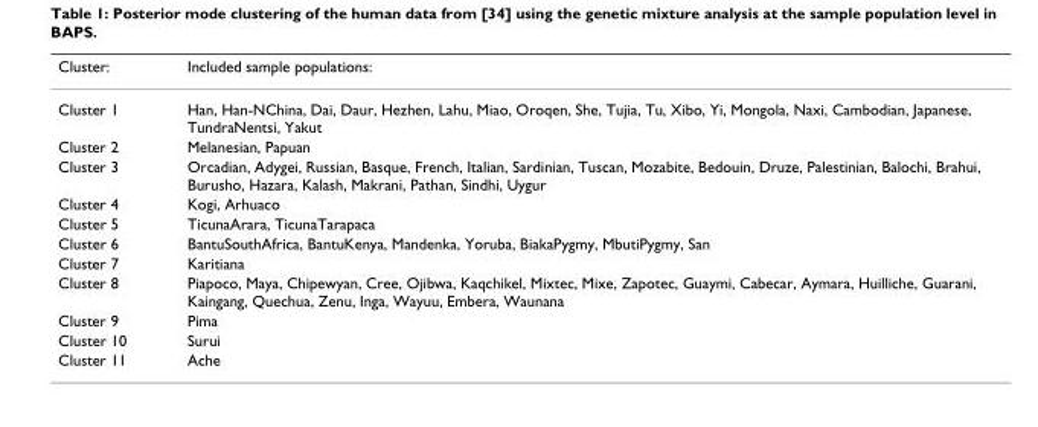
<table><thead><tr><td>Cluster:</td><td>Included sample populations:</td></tr></thead><tbody><tr><td>Cluster 1</td><td>Han, Han-NChina, Dai, Daur, Hezhen, Lahu, Miao, Oroqen, She, Tujia, Tu, Xibo, Yi, Mongola, Naxi, Cambodian, Japanese, TundraNentsi, Yakut</td></tr><tr><td>Cluster 2</td><td>Melanesian, Papuan</td></tr><tr><td>Cluster 3</td><td>Orcadian, Adygei, Russian, Basque, French, Italian, Sardinian, Tuscan, Mozabite, Bedouin, Druze, Palestinian, Balochi, Brahui, Burusho, Hazara, Kalash, Makrani, Pathan, Sindhi, Uygur</td></tr><tr><td>Cluster 4</td><td>Kogi, Arhuaco</td></tr><tr><td>Cluster 5</td><td>TicunaArara, TicunaTarapaca</td></tr><tr><td>Cluster 6</td><td>BantuSouthAfrica, BantuKenya, Mandenka, Yoruba, BiakaPygmy, MbutiPygmy, San</td></tr><tr><td>Cluster 7</td><td>Karitiana</td></tr><tr><td>Cluster 8</td><td>Piapoco, Maya, Chipewyan, Cree, Ojibwa, Kaqchikel, Mixtec, Mixe, Zapotec, Guaymi, Cabecar, Aymara, Huilliche, Guarani, Kaingang, Quechua, Zenu, Inga, Wayuu, Embera, Waunana</td></tr><tr><td>Cluster 9</td><td>Pima</td></tr><tr><td>Cluster 10</td><td>Surui</td></tr><tr><td>Cluster 11</td><td>Ache</td></tr></tbody></table>